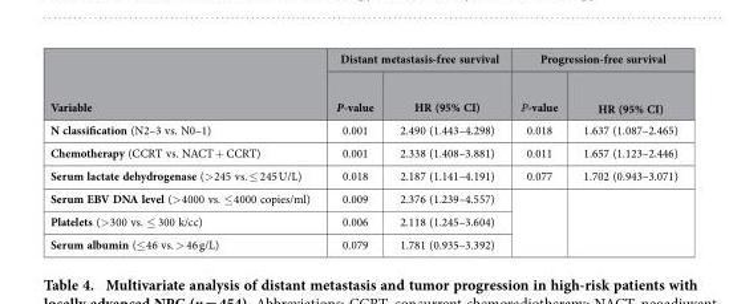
<table><thead><tr><td rowspan="2">Variable</td><td colspan="2">Distant metastasis-free survival</td><td colspan="2">Progression-free survival</td></tr><tr><td>P-value</td><td>HR (95% CI)</td><td>P-value</td><td>HR (95% CI)</td></tr></thead><tbody><tr><td>N classification (N2–3 vs. N0–1)</td><td>0.001</td><td>2.490 (1.443–4.298)</td><td>0.018</td><td>1.637 (1.087–2.465)</td></tr><tr><td>Chemotherapy (CCRT vs. NACT + CCRT)</td><td>0.001</td><td>2.338 (1.408–3.881)</td><td>0.011</td><td>1.657 (1.123–2.446)</td></tr><tr><td>Serum lactate dehydrogenase (&gt; 245 vs. ≤ 245 U/L)</td><td>0.018</td><td>2.187 (1.141–4.191)</td><td>0.077</td><td>1.702 (0.943–3.071)</td></tr><tr><td>Serum EBV DNA level (&gt; 4000 vs. ≤ 4000 copies/ml)</td><td>0.009</td><td>2.376 (1.239–4.557)</td><td rowspan="3"></td><td rowspan="3"></td></tr><tr><td>Platelets (&gt; 300 vs. ≤ 300 k/cc)</td><td>0.006</td><td>2.118 (1.245–3.604)</td></tr><tr><td>Serum albumin (≤ 46 vs. &gt; 46 g/L)</td><td>0.079</td><td>1.781 (0.935–3.392)</td></tr></tbody></table>